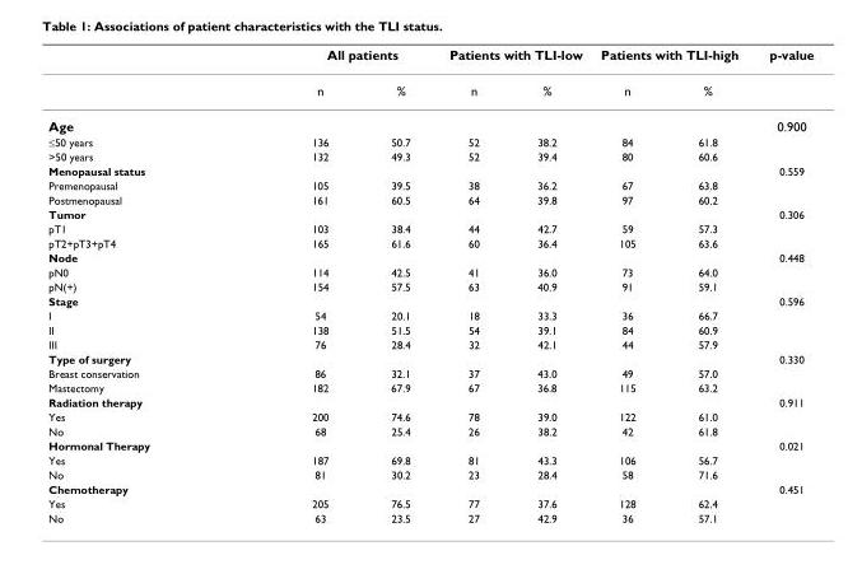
<table><thead><tr><td rowspan="2"></td><td colspan="2">All patients</td><td colspan="2">Patients with TLI-low</td><td colspan="2">Patients with TLI-high</td><td rowspan="2">p-value</td></tr><tr><td>n</td><td>%</td><td>n</td><td>%</td><td>n</td><td>%</td></tr></thead><tbody><tr><td>Age</td><td></td><td></td><td></td><td></td><td></td><td></td><td>0.900</td></tr><tr><td>≤50 years</td><td>136</td><td>50.7</td><td>52</td><td>38.2</td><td>84</td><td>61.8</td><td></td></tr><tr><td>&gt;50 years</td><td>132</td><td>49.3</td><td>52</td><td>39.4</td><td>80</td><td>60.6</td><td></td></tr><tr><td>Menopausal status</td><td></td><td></td><td></td><td></td><td></td><td></td><td>0.559</td></tr><tr><td>Premenopausal</td><td>105</td><td>39.5</td><td>38</td><td>36.2</td><td>67</td><td>63.8</td><td></td></tr><tr><td>Postmenopausal</td><td>161</td><td>60.5</td><td>64</td><td>39.8</td><td>97</td><td>60.2</td><td></td></tr><tr><td>Tumor</td><td></td><td></td><td></td><td></td><td></td><td></td><td>0.306</td></tr><tr><td>pT1</td><td>103</td><td>38.4</td><td>44</td><td>42.7</td><td>59</td><td>57.3</td><td></td></tr><tr><td>pT2+pT3+pT4</td><td>165</td><td>61.6</td><td>60</td><td>36.4</td><td>105</td><td>63.6</td><td></td></tr><tr><td>Node</td><td></td><td></td><td></td><td></td><td></td><td></td><td>0.448</td></tr><tr><td>pN0</td><td>114</td><td>42.5</td><td>41</td><td>36.0</td><td>73</td><td>64.0</td><td></td></tr><tr><td>pN(+)</td><td>154</td><td>57.5</td><td>63</td><td>40.9</td><td>91</td><td>59.1</td><td></td></tr><tr><td>Stage</td><td></td><td></td><td></td><td></td><td></td><td></td><td>0.596</td></tr><tr><td>I</td><td>54</td><td>20.1</td><td>18</td><td>33.3</td><td>36</td><td>66.7</td><td></td></tr><tr><td>II</td><td>138</td><td>51.5</td><td>54</td><td>39.1</td><td>84</td><td>60.9</td><td></td></tr><tr><td>III</td><td>76</td><td>28.4</td><td>32</td><td>42.1</td><td>44</td><td>57.9</td><td></td></tr><tr><td>Type of surgery</td><td></td><td></td><td></td><td></td><td></td><td></td><td>0.330</td></tr><tr><td>Breast conservation</td><td>86</td><td>32.1</td><td>37</td><td>43.0</td><td>49</td><td>57.0</td><td></td></tr><tr><td>Mastectomy</td><td>182</td><td>67.9</td><td>67</td><td>36.8</td><td>115</td><td>63.2</td><td></td></tr><tr><td>Radiation therapy</td><td></td><td></td><td></td><td></td><td></td><td></td><td>0.911</td></tr><tr><td>Yes</td><td>200</td><td>74.6</td><td>78</td><td>39.0</td><td>122</td><td>61.0</td><td></td></tr><tr><td>No</td><td>68</td><td>25.4</td><td>26</td><td>38.2</td><td>42</td><td>61.8</td><td></td></tr><tr><td>Hormonal Therapy</td><td></td><td></td><td></td><td></td><td></td><td></td><td>0.021</td></tr><tr><td>Yes</td><td>187</td><td>69.8</td><td>81</td><td>43.3</td><td>106</td><td>56.7</td><td></td></tr><tr><td>No</td><td>81</td><td>30.2</td><td>23</td><td>28.4</td><td>58</td><td>71.6</td><td></td></tr><tr><td>Chemotherapy</td><td></td><td></td><td></td><td></td><td></td><td></td><td>0.451</td></tr><tr><td>Yes</td><td>205</td><td>76.5</td><td>77</td><td>37.6</td><td>128</td><td>62.4</td><td></td></tr><tr><td>No</td><td>63</td><td>23.5</td><td>27</td><td>42.9</td><td>36</td><td>57.1</td><td></td></tr></tbody></table>